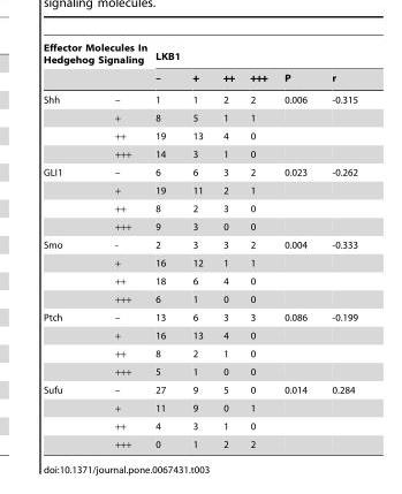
<table><thead><tr><td colspan="2">Effector Molecules In Hedgehog Signaling</td><td colspan="6">LKB1</td></tr><tr><td></td><td></td><td>–</td><td>+</td><td>++</td><td>+++</td><td>P</td><td>r</td></tr></thead><tbody><tr><td rowspan="4">Shh</td><td>–</td><td>1</td><td>1</td><td>2</td><td>2</td><td>0.006</td><td>-0.315</td></tr><tr><td>+</td><td>8</td><td>5</td><td>1</td><td>1</td><td></td><td></td></tr><tr><td>++</td><td>19</td><td>13</td><td>4</td><td>0</td><td></td><td></td></tr><tr><td>+++</td><td>14</td><td>3</td><td>1</td><td>0</td><td></td><td></td></tr><tr><td rowspan="4">GLI1</td><td>–</td><td>6</td><td>6</td><td>3</td><td>2</td><td>0.023</td><td>-0.262</td></tr><tr><td>+</td><td>19</td><td>11</td><td>2</td><td>1</td><td></td><td></td></tr><tr><td>++</td><td>8</td><td>2</td><td>3</td><td>0</td><td></td><td></td></tr><tr><td>+++</td><td>9</td><td>3</td><td>0</td><td>0</td><td></td><td></td></tr><tr><td rowspan="4">Smo</td><td>-</td><td>2</td><td>3</td><td>3</td><td>2</td><td>0.004</td><td>-0.333</td></tr><tr><td>+</td><td>16</td><td>12</td><td>1</td><td>1</td><td></td><td></td></tr><tr><td>++</td><td>18</td><td>6</td><td>4</td><td>0</td><td></td><td></td></tr><tr><td>+++</td><td>6</td><td>1</td><td>0</td><td>0</td><td></td><td></td></tr><tr><td rowspan="4">Ptch</td><td>–</td><td>13</td><td>6</td><td>3</td><td>3</td><td>0.086</td><td>-0.199</td></tr><tr><td>+</td><td>16</td><td>13</td><td>4</td><td>0</td><td></td><td></td></tr><tr><td>++</td><td>8</td><td>2</td><td>1</td><td>0</td><td></td><td></td></tr><tr><td>+++</td><td>5</td><td>1</td><td>0</td><td>0</td><td></td><td></td></tr><tr><td rowspan="4">Sufu</td><td>–</td><td>27</td><td>9</td><td>5</td><td>0</td><td>0.014</td><td>0.284</td></tr><tr><td>+</td><td>11</td><td>9</td><td>0</td><td>1</td><td></td><td></td></tr><tr><td>++</td><td>4</td><td>3</td><td>1</td><td>0</td><td></td><td></td></tr><tr><td>+++</td><td>0</td><td>1</td><td>2</td><td>2</td><td></td><td></td></tr></tbody></table>